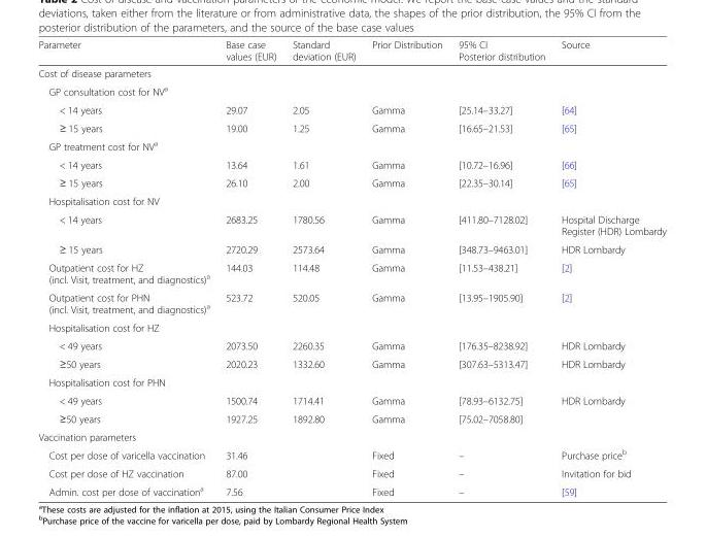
<table><thead><tr><td>Parameter</td><td>Base case values (EUR)</td><td>Standard deviation (EUR)</td><td>Prior Distribution</td><td>95% CI Posterior distribution</td><td>Source</td></tr></thead><tbody><tr><td colspan="6">Cost of disease parameters</td></tr><tr><td colspan="6">GP consultation cost for NV<sup>a</sup></td></tr><tr><td>&lt; 14 years</td><td>29.07</td><td>2.05</td><td>Gamma</td><td>[25.14–33.27]</td><td>[64]</td></tr><tr><td>≥ 15 years</td><td>19.00</td><td>1.25</td><td>Gamma</td><td>[16.65–21.53]</td><td>[65]</td></tr><tr><td colspan="6">GP treatment cost for NV<sup>a</sup></td></tr><tr><td>&lt; 14 years</td><td>13.64</td><td>1.61</td><td>Gamma</td><td>[10.72–16.96]</td><td>[66]</td></tr><tr><td>≥ 15 years</td><td>26.10</td><td>2.00</td><td>Gamma</td><td>[22.35–30.14]</td><td>[65]</td></tr><tr><td colspan="6">Hospitalisation cost for NV</td></tr><tr><td>&lt; 14 years</td><td>2683.25</td><td>1780.56</td><td>Gamma</td><td>[411.80–7128.02]</td><td>Hospital Discharge Register (HDR) Lombardy</td></tr><tr><td>≥ 15 years</td><td>2720.29</td><td>2573.64</td><td>Gamma</td><td>[348.73–9463.01]</td><td>HDR Lombardy</td></tr><tr><td>Outpatient cost for HZ (incl. Visit, treatment, and diagnostics)<sup>a</sup></td><td>144.03</td><td>114.48</td><td>Gamma</td><td>[11.53–438.21]</td><td>[2]</td></tr><tr><td>Outpatient cost for PHN (incl. Visit, treatment, and diagnostics)<sup>a</sup></td><td>523.72</td><td>520.05</td><td>Gamma</td><td>[13.95–1905.90]</td><td>[2]</td></tr><tr><td colspan="6">Hospitalisation cost for HZ</td></tr><tr><td>&lt; 49 years</td><td>2073.50</td><td>2260.35</td><td>Gamma</td><td>[176.35–8238.92]</td><td>HDR Lombardy</td></tr><tr><td>≥50 years</td><td>2020.23</td><td>1332.60</td><td>Gamma</td><td>[307.63–5313.47]</td><td>HDR Lombardy</td></tr><tr><td colspan="6">Hospitalisation cost for PHN</td></tr><tr><td>&lt; 49 years</td><td>1500.74</td><td>1714.41</td><td>Gamma</td><td>[78.93–6132.75]</td><td>HDR Lombardy</td></tr><tr><td>≥50 years</td><td>1927.25</td><td>1892.80</td><td>Gamma</td><td>[75.02–7058.80]</td><td></td></tr><tr><td colspan="6">Vaccination parameters</td></tr><tr><td>Cost per dose of varicella vaccination</td><td>31.46</td><td></td><td>Fixed</td><td>–</td><td>Purchase price<sup>b</sup></td></tr><tr><td>Cost per dose of HZ vaccination</td><td>87.00</td><td></td><td>Fixed</td><td>–</td><td>Invitation for bid</td></tr><tr><td>Admin. cost per dose of vaccination<sup>a</sup></td><td>7.56</td><td></td><td>Fixed</td><td>–</td><td>[59]</td></tr></tbody></table>